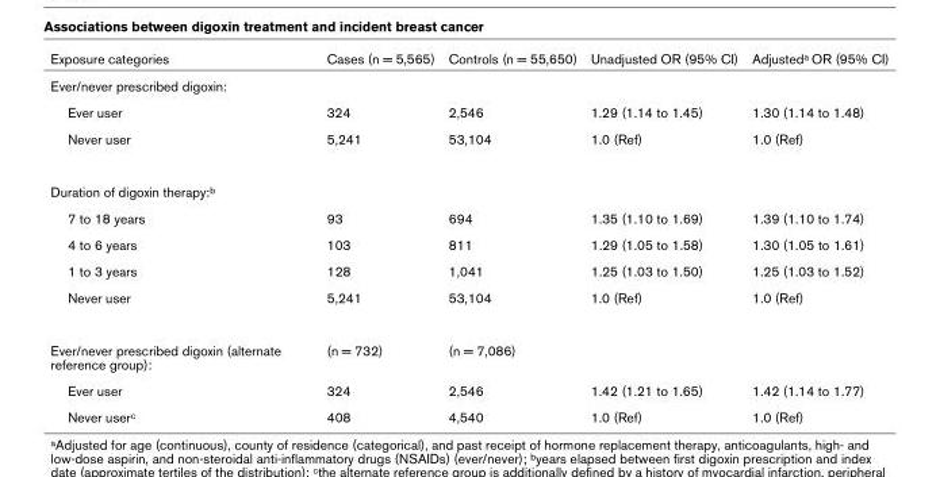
<table><thead><tr><td>Exposure categories</td><td>Cases (n = 5,565)</td><td>Controls (n = 55,650)</td><td>Unadjusted OR (95% CI)</td><td>Adjusted<sup>a</sup> OR (95% CI)</td></tr></thead><tbody><tr><td colspan="5">Ever/never prescribed digoxin:</td></tr><tr><td>Ever user</td><td>324</td><td>2,546</td><td>1.29 (1.14 to 1.45)</td><td>1.30 (1.14 to 1.48)</td></tr><tr><td>Never user</td><td>5,241</td><td>53,104</td><td>1.0 (Ref)</td><td>1.0 (Ref)</td></tr><tr><td colspan="5">Duration of digoxin therapy:<sup>b</sup></td></tr><tr><td>7 to 18 years</td><td>93</td><td>694</td><td>1.35 (1.10 to 1.69)</td><td>1.39 (1.10 to 1.74)</td></tr><tr><td>4 to 6 years</td><td>103</td><td>811</td><td>1.29 (1.05 to 1.58)</td><td>1.30 (1.05 to 1.61)</td></tr><tr><td>1 to 3 years</td><td>128</td><td>1,041</td><td>1.25 (1.03 to 1.50)</td><td>1.25 (1.03 to 1.52)</td></tr><tr><td>Never user</td><td>5,241</td><td>53,104</td><td>1.0 (Ref)</td><td>1.0 (Ref)</td></tr><tr><td>Ever/never prescribed digoxin (alternate reference group):</td><td>(n = 732)</td><td>(n = 7,086)</td><td></td><td></td></tr><tr><td>Ever user</td><td>324</td><td>2,546</td><td>1.42 (1.21 to 1.65)</td><td>1.42 (1.14 to 1.77)</td></tr><tr><td>Never user<sup>c</sup></td><td>408</td><td>4,540</td><td>1.0 (Ref)</td><td>1.0 (Ref)</td></tr></tbody></table>